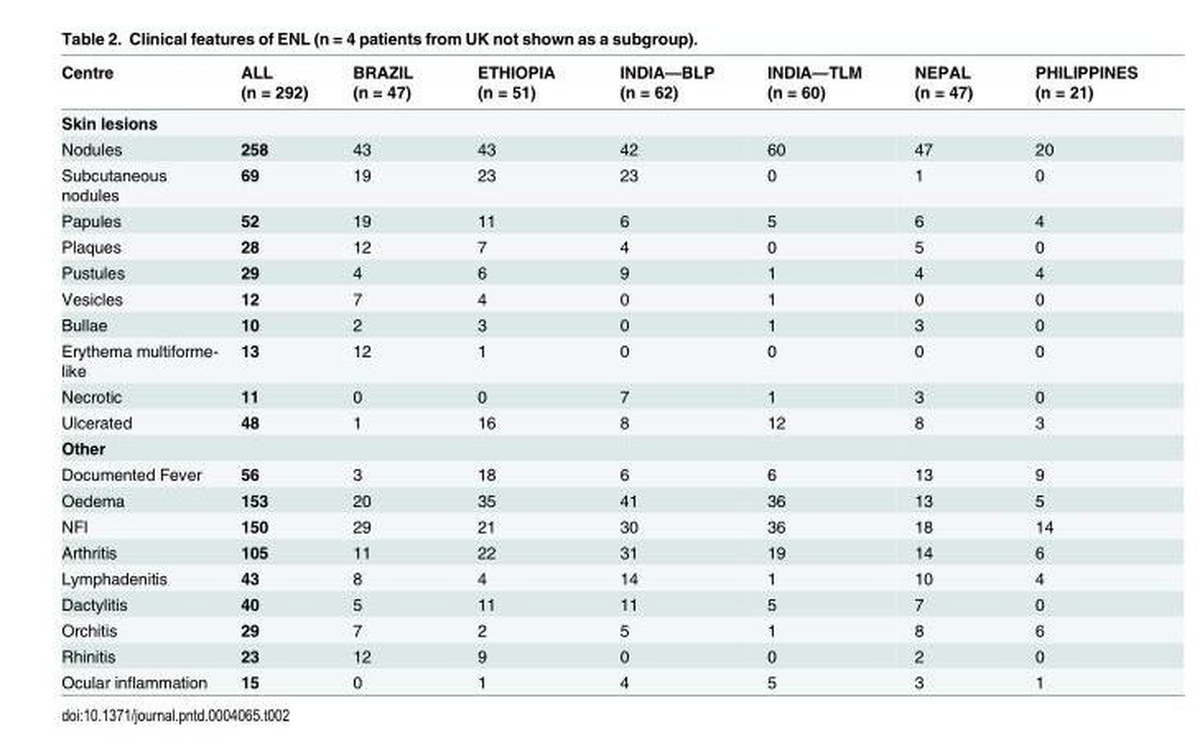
<table><thead><tr><td>Centre</td><td>ALL (n = 292)</td><td>BRAZIL (n = 47)</td><td>ETHIOPIA (n = 51)</td><td>INDIA—BLP (n = 62)</td><td>INDIA—TLM (n = 60)</td><td>NEPAL (n = 47)</td><td>PHILIPPINES (n = 21)</td></tr></thead><tbody><tr><td colspan="8">Skin lesions</td></tr><tr><td>Nodules</td><td>258</td><td>43</td><td>43</td><td>42</td><td>60</td><td>47</td><td>20</td></tr><tr><td>Subcutaneous nodules</td><td>69</td><td>19</td><td>23</td><td>23</td><td>0</td><td>1</td><td>0</td></tr><tr><td>Papules</td><td>52</td><td>19</td><td>11</td><td>6</td><td>5</td><td>6</td><td>4</td></tr><tr><td>Plaques</td><td>28</td><td>12</td><td>7</td><td>4</td><td>0</td><td>5</td><td>0</td></tr><tr><td>Pustules</td><td>29</td><td>4</td><td>6</td><td>9</td><td>1</td><td>4</td><td>4</td></tr><tr><td>Vesicles</td><td>12</td><td>7</td><td>4</td><td>0</td><td>1</td><td>0</td><td>0</td></tr><tr><td>Bullae</td><td>10</td><td>2</td><td>3</td><td>0</td><td>1</td><td>3</td><td>0</td></tr><tr><td>Erythema multiforme- like</td><td>13</td><td>12</td><td>1</td><td>0</td><td>0</td><td>0</td><td>0</td></tr><tr><td>Necrotic</td><td>11</td><td>0</td><td>0</td><td>7</td><td>1</td><td>3</td><td>0</td></tr><tr><td>Ulcerated</td><td>48</td><td>1</td><td>16</td><td>8</td><td>12</td><td>8</td><td>3</td></tr><tr><td colspan="8">Other</td></tr><tr><td>Documented Fever</td><td>56</td><td>3</td><td>18</td><td>6</td><td>6</td><td>13</td><td>9</td></tr><tr><td>Oedema</td><td>153</td><td>20</td><td>35</td><td>41</td><td>36</td><td>13</td><td>5</td></tr><tr><td>NFI</td><td>150</td><td>29</td><td>21</td><td>30</td><td>36</td><td>18</td><td>14</td></tr><tr><td>Arthritis</td><td>105</td><td>11</td><td>22</td><td>31</td><td>19</td><td>14</td><td>6</td></tr><tr><td>Lymphadenitis</td><td>43</td><td>8</td><td>4</td><td>14</td><td>1</td><td>10</td><td>4</td></tr><tr><td>Dactylitis</td><td>40</td><td>5</td><td>11</td><td>11</td><td>5</td><td>7</td><td>0</td></tr><tr><td>Orchitis</td><td>29</td><td>7</td><td>2</td><td>5</td><td>1</td><td>8</td><td>6</td></tr><tr><td>Rhinitis</td><td>23</td><td>12</td><td>9</td><td>0</td><td>0</td><td>2</td><td>0</td></tr><tr><td>Ocular inflammation</td><td>15</td><td>0</td><td>1</td><td>4</td><td>5</td><td>3</td><td>1</td></tr></tbody></table>